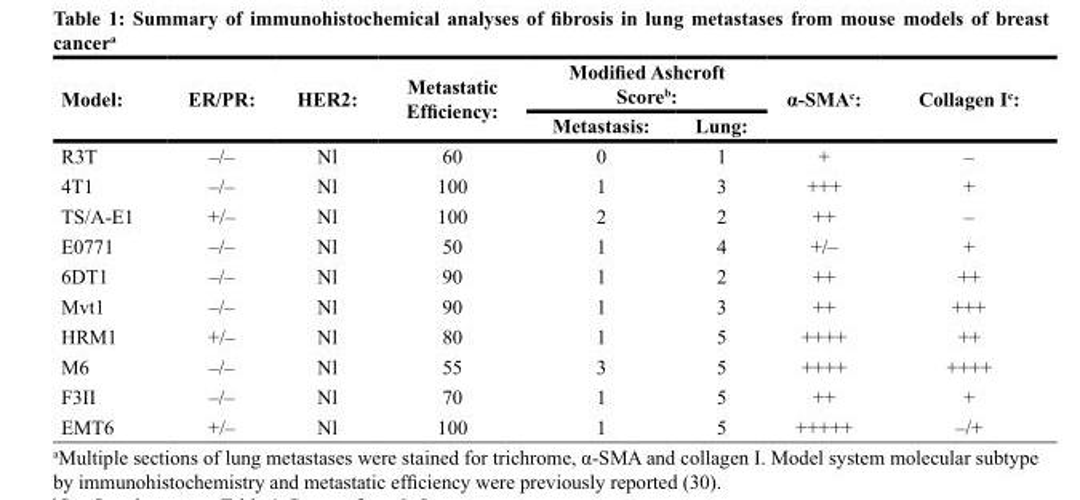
<table><thead><tr><td rowspan="2">Model:</td><td rowspan="2">ER/PR:</td><td rowspan="2">HER2:</td><td rowspan="2">Metastatic Efficiency:</td><td colspan="2">Modified Ashcroft Score<sup>b</sup>:</td><td rowspan="2">α-SMA<sup>c</sup>:</td><td rowspan="2">Collagen I<sup>c</sup>:</td></tr><tr><td>Metastasis:</td><td>Lung:</td></tr></thead><tbody><tr><td>R3T</td><td>–/–</td><td>Nl</td><td>60</td><td>0</td><td>1</td><td>+</td><td>–</td></tr><tr><td>4T1</td><td>–/–</td><td>Nl</td><td>100</td><td>1</td><td>3</td><td>+++</td><td>+</td></tr><tr><td>TS/A-E1</td><td>+/–</td><td>Nl</td><td>100</td><td>2</td><td>2</td><td>++</td><td>–</td></tr><tr><td>E0771</td><td>–/–</td><td>Nl</td><td>50</td><td>1</td><td>4</td><td>+/–</td><td>+</td></tr><tr><td>6DT1</td><td>–/–</td><td>Nl</td><td>90</td><td>1</td><td>2</td><td>++</td><td>++</td></tr><tr><td>Mvt1</td><td>–/–</td><td>Nl</td><td>90</td><td>1</td><td>3</td><td>++</td><td>+++</td></tr><tr><td>HRM1</td><td>+/–</td><td>Nl</td><td>80</td><td>1</td><td>5</td><td>++++</td><td>++</td></tr><tr><td>M6</td><td>–/–</td><td>Nl</td><td>55</td><td>3</td><td>5</td><td>++++</td><td>++++</td></tr><tr><td>F3II</td><td>–/–</td><td>Nl</td><td>70</td><td>1</td><td>5</td><td>++</td><td>+</td></tr><tr><td>EMT6</td><td>+/–</td><td>Nl</td><td>100</td><td>1</td><td>5</td><td>+++++</td><td>–/+</td></tr></tbody></table>